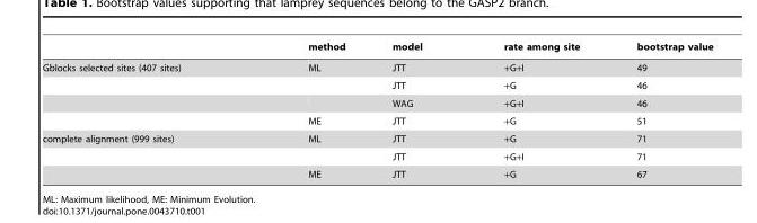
<table><thead><tr><td></td><td>method</td><td>model</td><td>rate among site</td><td>bootstrap value</td></tr></thead><tbody><tr><td rowspan="4">Gblocks selected sites (407 sites)</td><td>ML</td><td>JTT</td><td>+G+I</td><td>49</td></tr><tr><td></td><td>JTT</td><td>+G</td><td>46</td></tr><tr><td></td><td>WAG</td><td>+G+I</td><td>46</td></tr><tr><td>ME</td><td>JTT</td><td>+G</td><td>51</td></tr><tr><td rowspan="3">complete alignment (999 sites)</td><td>ML</td><td>JTT</td><td>+G</td><td>71</td></tr><tr><td></td><td>JTT</td><td>+G+I</td><td>71</td></tr><tr><td>ME</td><td>JTT</td><td>+G</td><td>67</td></tr></tbody></table>